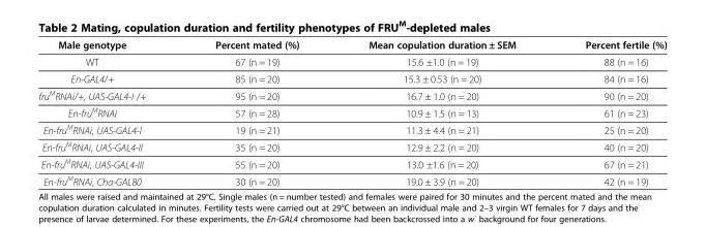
<table><thead><tr><td>Male genotype</td><td>Percent mated (%)</td><td>Mean copulation duration ± SEM</td><td>Percent fertile (%)</td></tr></thead><tbody><tr><td>WT</td><td>67 (n = 19)</td><td>15.6 ±1.0 (n = 19)</td><td>88 (n = 16)</td></tr><tr><td>En-GAL4/+</td><td>85 (n = 20)</td><td>15.3 ± 0.53 (n = 20)</td><td>84 (n = 16)</td></tr><tr><td>fru<sup>M</sup>RNAi/+, UAS-GAL4-I /+</td><td>95 (n = 20)</td><td>16.7 ± 1.0 (n = 20)</td><td>90 (n = 20)</td></tr><tr><td>En-fru<sup>M</sup>RNAi</td><td>57 (n = 28)</td><td>10.9 ± 1.5 (n = 13)</td><td>61 (n = 23)</td></tr><tr><td>En-fru<sup>M</sup>RNAi, UAS-GAL4-I</td><td>19 (n = 21)</td><td>11.3 ± 4.4 (n = 21)</td><td>25 (n = 20)</td></tr><tr><td>En-fru<sup>M</sup>RNAi, UAS-GAL4-II</td><td>35 (n = 20)</td><td>12.9 ± 2.2 (n = 20)</td><td>40 (n = 20)</td></tr><tr><td>En-fru<sup>M</sup>RNAi, UAS-GAL4-III</td><td>55 (n = 20)</td><td>13.0 ±1.6 (n = 20)</td><td>67 (n = 21)</td></tr><tr><td>En-fru<sup>M</sup>RNAi, Cha-GAL80</td><td>30 (n = 20)</td><td>19.0 ± 3.9 (n = 20)</td><td>42 (n = 19)</td></tr></tbody></table>